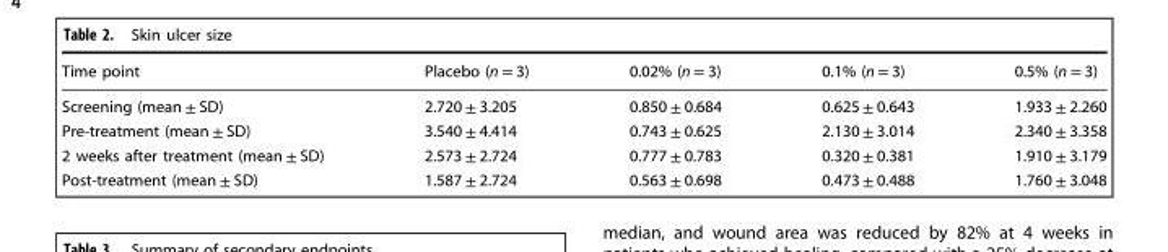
<table><thead><tr><td>Time point</td><td>Placebo (n = 3)</td><td>0.02% (n = 3)</td><td>0.1% (n = 3)</td><td>0.5% (n = 3)</td></tr></thead><tbody><tr><td>Screening (mean ± SD)</td><td>2.720 ± 3.205</td><td>0.850 ± 0.684</td><td>0.625 ± 0.643</td><td>1.933 ± 2.260</td></tr><tr><td>Pre-treatment (mean ± SD)</td><td>3.540 ± 4.414</td><td>0.743 ± 0.625</td><td>2.130 ± 3.014</td><td>2.340 ± 3.358</td></tr><tr><td>2 weeks after treatment (mean ± SD)</td><td>2.573 ± 2.724</td><td>0.777 ± 0.783</td><td>0.320 ± 0.381</td><td>1.910 ± 3.179</td></tr><tr><td>Post-treatment (mean ± SD)</td><td>1.587 ± 2.724</td><td>0.563 ± 0.698</td><td>0.473 ± 0.488</td><td>1.760 ± 3.048</td></tr></tbody></table>